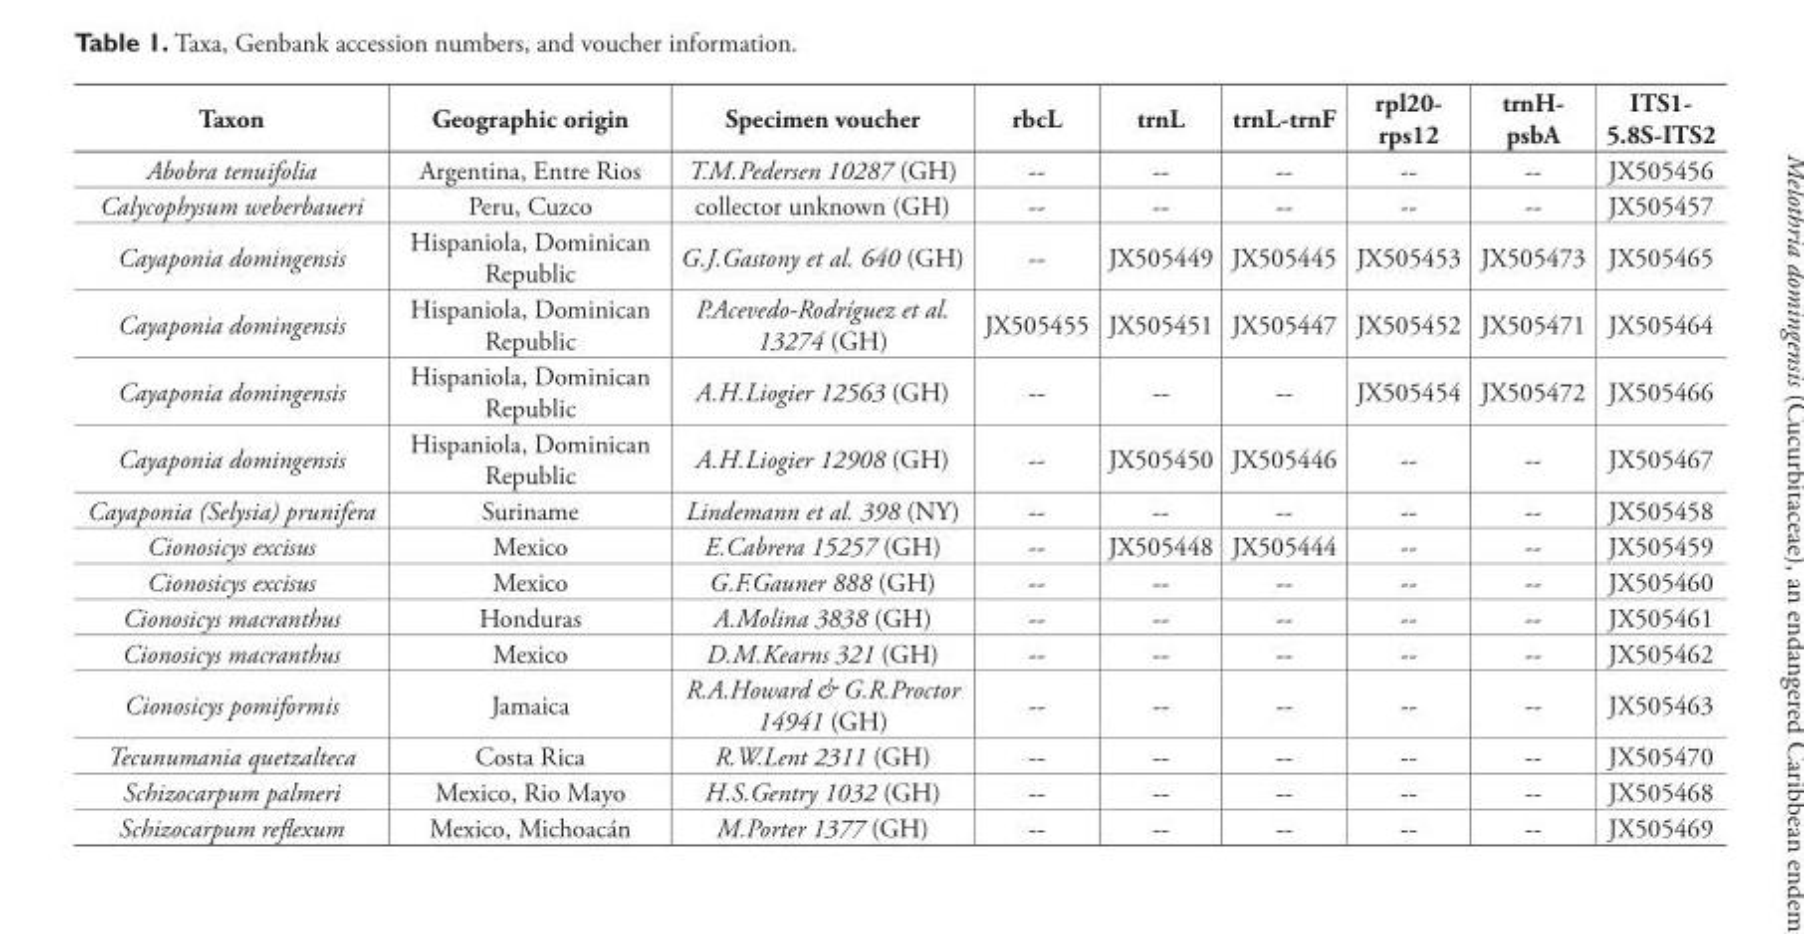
<table><thead><tr><td>Taxon</td><td>Geographic origin</td><td>Specimen voucher</td><td>rbcL</td><td>trnL</td><td>trnL-trnF</td><td>rpl20- rps12</td><td>trnH- psbA</td><td>ITS1- 5.8S-ITS2</td></tr></thead><tbody><tr><td>Abobra tenuifolia</td><td>Argentina, Entre Rios</td><td>T.M.Pedersen 10287 (GH)</td><td>--</td><td>--</td><td>--</td><td>--</td><td>--</td><td>JX505456</td></tr><tr><td>Calycophysum weberbaueri</td><td>Peru, Cuzco</td><td>collector unknown (GH)</td><td>--</td><td>--</td><td>--</td><td>--</td><td>--</td><td>JX505457</td></tr><tr><td>Cayaponia domingensis</td><td>Hispaniola, Dominican Republic</td><td>G.J.Gastony et al. 640 (GH)</td><td>--</td><td>JX505449</td><td>JX505445</td><td>JX505453</td><td>JX505473</td><td>JX505465</td></tr><tr><td>Cayaponia domingensis</td><td>Hispaniola, Dominican Republic</td><td>P.Acevedo-Rodríguez et al. 13274 (GH)</td><td>JX505455</td><td>JX505451</td><td>JX505447</td><td>JX505452</td><td>JX505471</td><td>JX505464</td></tr><tr><td>Cayaponia domingensis</td><td>Hispaniola, Dominican Republic</td><td>A.H.Liogier 12563 (GH)</td><td>--</td><td>--</td><td>--</td><td>JX505454</td><td>JX505472</td><td>JX505466</td></tr><tr><td>Cayaponia domingensis</td><td>Hispaniola, Dominican Republic</td><td>A.H.Liogier 12908 (GH)</td><td>--</td><td>JX505450</td><td>JX505446</td><td>--</td><td>--</td><td>JX505467</td></tr><tr><td>Cayaponia (Selysia) prunifera</td><td>Suriname</td><td>Lindemann et al. 398 (NY)</td><td>--</td><td>--</td><td>--</td><td>--</td><td>--</td><td>JX505458</td></tr><tr><td>Cionosicys excisus</td><td>Mexico</td><td>E.Cabrera 15257 (GH)</td><td>--</td><td>JX505448</td><td>JX505444</td><td>--</td><td>--</td><td>JX505459</td></tr><tr><td>Cionosicys excisus</td><td>Mexico</td><td>G.F.Gauner 888 (GH)</td><td>--</td><td>--</td><td>--</td><td>--</td><td>--</td><td>JX505460</td></tr><tr><td>Cionosicys macranthus</td><td>Honduras</td><td>A.Molina 3838 (GH)</td><td>--</td><td>--</td><td>--</td><td>--</td><td>--</td><td>JX505461</td></tr><tr><td>Cionosicys macranthus</td><td>Mexico</td><td>D.M.Kearns 321 (GH)</td><td>--</td><td>--</td><td>--</td><td>--</td><td>--</td><td>JX505462</td></tr><tr><td>Cionosicys pomiformis</td><td>Jamaica</td><td>R.A.Howard &amp; G.R.Proctor 14941 (GH)</td><td>--</td><td>--</td><td>--</td><td>--</td><td>--</td><td>JX505463</td></tr><tr><td>Tecunumania quetzalteca</td><td>Costa Rica</td><td>R.W.Lent 2311 (GH)</td><td>--</td><td>--</td><td>--</td><td>--</td><td>--</td><td>JX505470</td></tr><tr><td>Schizocarpum palmeri</td><td>Mexico, Rio Mayo</td><td>H.S.Gentry 1032 (GH)</td><td>--</td><td>--</td><td>--</td><td>--</td><td>--</td><td>JX505468</td></tr><tr><td>Schizocarpum refl exum</td><td>Mexico, Michoacán</td><td>M.Porter 1377 (GH)</td><td>--</td><td>--</td><td>--</td><td>--</td><td>--</td><td>JX505469</td></tr></tbody></table>